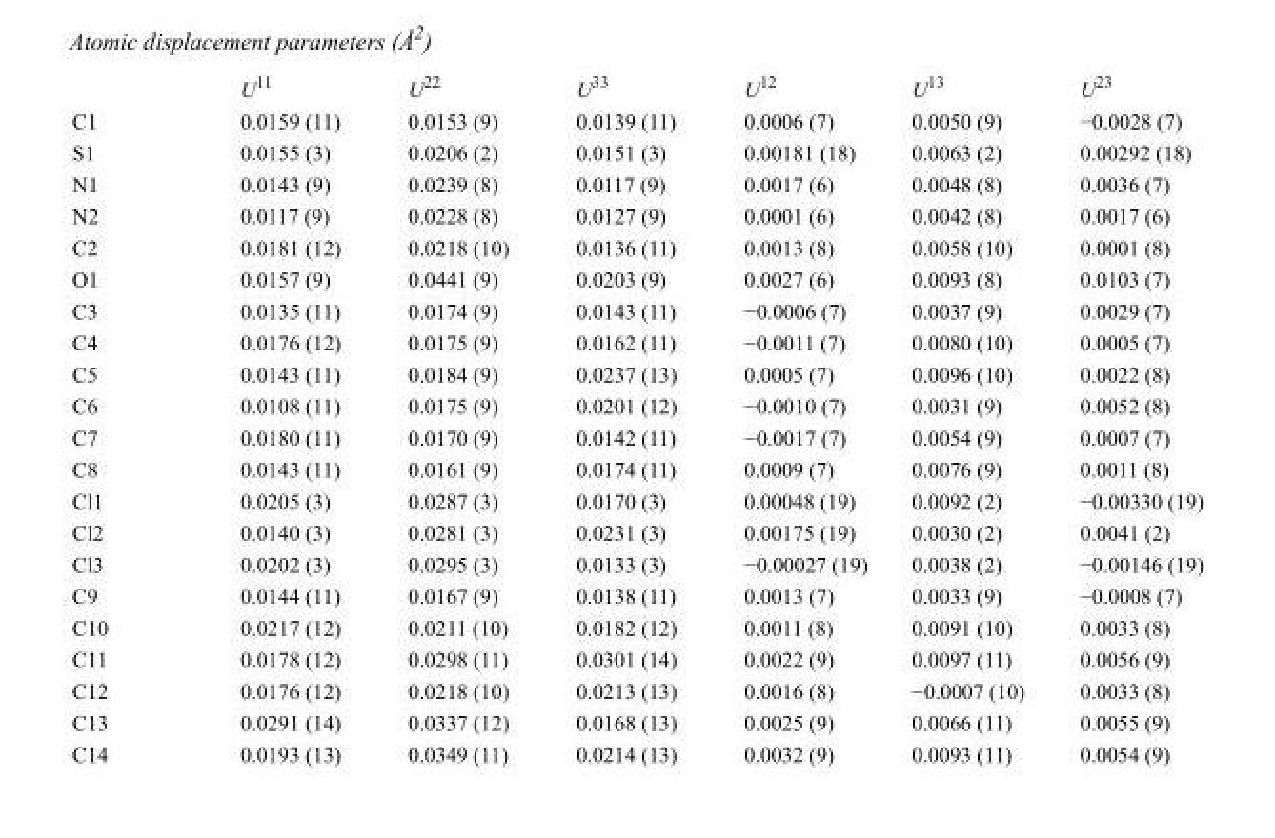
<table><thead><tr><td></td><td>U<sup>11</sup></td><td>U<sup>22</sup></td><td>U<sup>33</sup></td><td>U<sup>12</sup></td><td>U<sup>13</sup></td><td>U<sup>23</sup></td></tr></thead><tbody><tr><td>C1</td><td>0.0159 (11)</td><td>0.0153 (9)</td><td>0.0139 (11)</td><td>0.0006 (7)</td><td>0.0050 (9)</td><td>−0.0028 (7)</td></tr><tr><td>S1</td><td>0.0155 (3)</td><td>0.0206 (2)</td><td>0.0151 (3)</td><td>0.00181 (18)</td><td>0.0063 (2)</td><td>0.00292 (18)</td></tr><tr><td>N1</td><td>0.0143 (9)</td><td>0.0239 (8)</td><td>0.0117 (9)</td><td>0.0017 (6)</td><td>0.0048 (8)</td><td>0.0036 (7)</td></tr><tr><td>N2</td><td>0.0117 (9)</td><td>0.0228 (8)</td><td>0.0127 (9)</td><td>0.0001 (6)</td><td>0.0042 (8)</td><td>0.0017 (6)</td></tr><tr><td>C2</td><td>0.0181 (12)</td><td>0.0218 (10)</td><td>0.0136 (11)</td><td>0.0013 (8)</td><td>0.0058 (10)</td><td>0.0001 (8)</td></tr><tr><td>O1</td><td>0.0157 (9)</td><td>0.0441 (9)</td><td>0.0203 (9)</td><td>0.0027 (6)</td><td>0.0093 (8)</td><td>0.0103 (7)</td></tr><tr><td>C3</td><td>0.0135 (11)</td><td>0.0174 (9)</td><td>0.0143 (11)</td><td>−0.0006 (7)</td><td>0.0037 (9)</td><td>0.0029 (7)</td></tr><tr><td>C4</td><td>0.0176 (12)</td><td>0.0175 (9)</td><td>0.0162 (11)</td><td>−0.0011 (7)</td><td>0.0080 (10)</td><td>0.0005 (7)</td></tr><tr><td>C5</td><td>0.0143 (11)</td><td>0.0184 (9)</td><td>0.0237 (13)</td><td>0.0005 (7)</td><td>0.0096 (10)</td><td>0.0022 (8)</td></tr><tr><td>C6</td><td>0.0108 (11)</td><td>0.0175 (9)</td><td>0.0201 (12)</td><td>−0.0010 (7)</td><td>0.0031 (9)</td><td>0.0052 (8)</td></tr><tr><td>C7</td><td>0.0180 (11)</td><td>0.0170 (9)</td><td>0.0142 (11)</td><td>−0.0017 (7)</td><td>0.0054 (9)</td><td>0.0007 (7)</td></tr><tr><td>C8</td><td>0.0143 (11)</td><td>0.0161 (9)</td><td>0.0174 (11)</td><td>0.0009 (7)</td><td>0.0076 (9)</td><td>0.0011 (8)</td></tr><tr><td>Cl1</td><td>0.0205 (3)</td><td>0.0287 (3)</td><td>0.0170 (3)</td><td>0.00048 (19)</td><td>0.0092 (2)</td><td>−0.00330 (19)</td></tr><tr><td>Cl2</td><td>0.0140 (3)</td><td>0.0281 (3)</td><td>0.0231 (3)</td><td>0.00175 (19)</td><td>0.0030 (2)</td><td>0.0041 (2)</td></tr><tr><td>Cl3</td><td>0.0202 (3)</td><td>0.0295 (3)</td><td>0.0133 (3)</td><td>−0.00027 (19)</td><td>0.0038 (2)</td><td>−0.00146 (19)</td></tr><tr><td>C9</td><td>0.0144 (11)</td><td>0.0167 (9)</td><td>0.0138 (11)</td><td>0.0013 (7)</td><td>0.0033 (9)</td><td>−0.0008 (7)</td></tr><tr><td>C10</td><td>0.0217 (12)</td><td>0.0211 (10)</td><td>0.0182 (12)</td><td>0.0011 (8)</td><td>0.0091 (10)</td><td>0.0033 (8)</td></tr><tr><td>C11</td><td>0.0178 (12)</td><td>0.0298 (11)</td><td>0.0301 (14)</td><td>0.0022 (9)</td><td>0.0097 (11)</td><td>0.0056 (9)</td></tr><tr><td>C12</td><td>0.0176 (12)</td><td>0.0218 (10)</td><td>0.0213 (13)</td><td>0.0016 (8)</td><td>−0.0007 (10)</td><td>0.0033 (8)</td></tr><tr><td>C13</td><td>0.0291 (14)</td><td>0.0337 (12)</td><td>0.0168 (13)</td><td>0.0025 (9)</td><td>0.0066 (11)</td><td>0.0055 (9)</td></tr><tr><td>C14</td><td>0.0193 (13)</td><td>0.0349 (11)</td><td>0.0214 (13)</td><td>0.0032 (9)</td><td>0.0093 (11)</td><td>0.0054 (9)</td></tr></tbody></table>